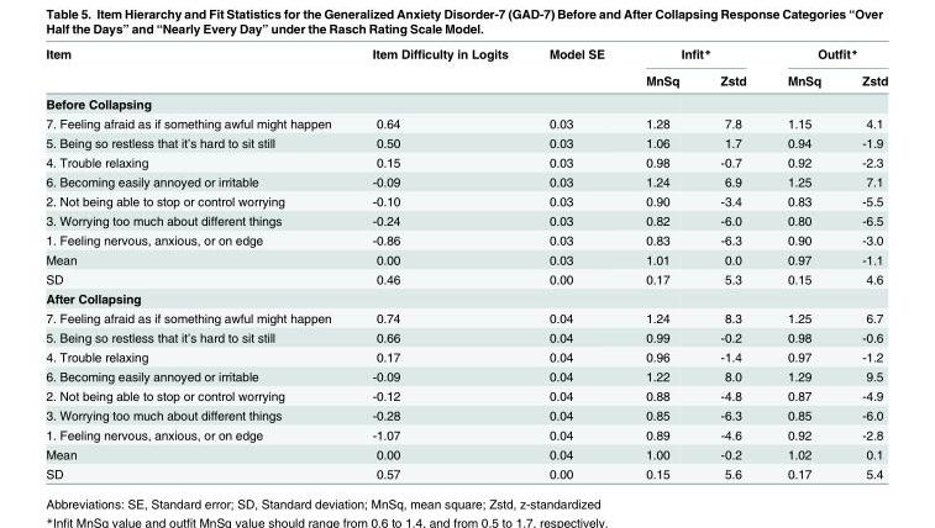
<table><thead><tr><td rowspan="2">Item</td><td rowspan="2">Item Difficulty in Logits</td><td rowspan="2">Model SE</td><td colspan="2">Infit*</td><td colspan="2">Outfit*</td></tr><tr><td>MnSq</td><td>Zstd</td><td>MnSq</td><td>Zstd</td></tr></thead><tbody><tr><td colspan="7">Before Collapsing</td></tr><tr><td>7. Feeling afraid as if something awful might happen</td><td>0.64</td><td>0.03</td><td>1.28</td><td>7.8</td><td>1.15</td><td>4.1</td></tr><tr><td>5. Being so restless that it’s hard to sit still</td><td>0.50</td><td>0.03</td><td>1.06</td><td>1.7</td><td>0.94</td><td>-1.9</td></tr><tr><td>4. Trouble relaxing</td><td>0.15</td><td>0.03</td><td>0.98</td><td>-0.7</td><td>0.92</td><td>-2.3</td></tr><tr><td>6. Becoming easily annoyed or irritable</td><td>-0.09</td><td>0.03</td><td>1.24</td><td>6.9</td><td>1.25</td><td>7.1</td></tr><tr><td>2. Not being able to stop or control worrying</td><td>-0.10</td><td>0.03</td><td>0.90</td><td>-3.4</td><td>0.83</td><td>-5.5</td></tr><tr><td>3. Worrying too much about different things</td><td>-0.24</td><td>0.03</td><td>0.82</td><td>-6.0</td><td>0.80</td><td>-6.5</td></tr><tr><td>1. Feeling nervous, anxious, or on edge</td><td>-0.86</td><td>0.03</td><td>0.83</td><td>-6.3</td><td>0.90</td><td>-3.0</td></tr><tr><td>Mean</td><td>0.00</td><td>0.03</td><td>1.01</td><td>0.0</td><td>0.97</td><td>-1.1</td></tr><tr><td>SD</td><td>0.46</td><td>0.00</td><td>0.17</td><td>5.3</td><td>0.15</td><td>4.6</td></tr><tr><td colspan="7">After Collapsing</td></tr><tr><td>7. Feeling afraid as if something awful might happen</td><td>0.74</td><td>0.04</td><td>1.24</td><td>8.3</td><td>1.25</td><td>6.7</td></tr><tr><td>5. Being so restless that it’s hard to sit still</td><td>0.66</td><td>0.04</td><td>0.99</td><td>-0.2</td><td>0.98</td><td>-0.6</td></tr><tr><td>4. Trouble relaxing</td><td>0.17</td><td>0.04</td><td>0.96</td><td>-1.4</td><td>0.97</td><td>-1.2</td></tr><tr><td>6. Becoming easily annoyed or irritable</td><td>-0.09</td><td>0.04</td><td>1.22</td><td>8.0</td><td>1.29</td><td>9.5</td></tr><tr><td>2. Not being able to stop or control worrying</td><td>-0.12</td><td>0.04</td><td>0.88</td><td>-4.8</td><td>0.87</td><td>-4.9</td></tr><tr><td>3. Worrying too much about different things</td><td>-0.28</td><td>0.04</td><td>0.85</td><td>-6.3</td><td>0.85</td><td>-6.0</td></tr><tr><td>1. Feeling nervous, anxious, or on edge</td><td>-1.07</td><td>0.04</td><td>0.89</td><td>-4.6</td><td>0.92</td><td>-2.8</td></tr><tr><td>Mean</td><td>0.00</td><td>0.04</td><td>1.00</td><td>-0.2</td><td>1.02</td><td>0.1</td></tr><tr><td>SD</td><td>0.57</td><td>0.00</td><td>0.15</td><td>5.6</td><td>0.17</td><td>5.4</td></tr></tbody></table>